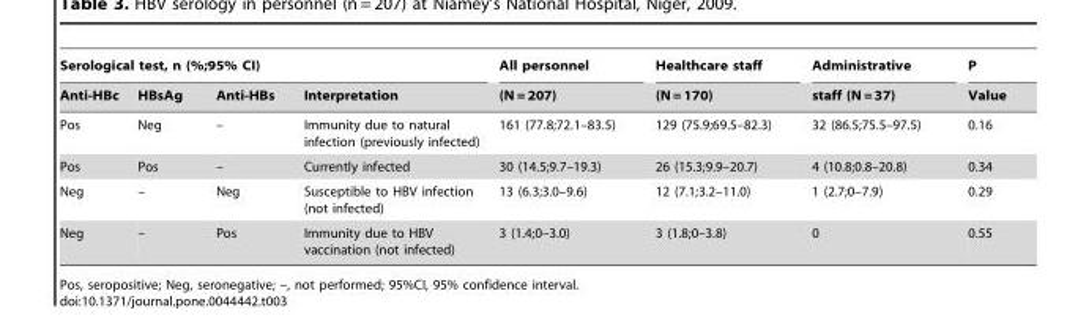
<table><thead><tr><td colspan="4">Serological test, n (%;95% CI)</td><td rowspan="2">All personnel (N = 207)</td><td rowspan="2">Healthcare staff (N = 170)</td><td rowspan="2">Administrative staff (N = 37)</td><td rowspan="2">P Value</td></tr><tr><td>Anti-HBc</td><td>HBsAg</td><td>Anti-HBs</td><td>Interpretation</td></tr></thead><tbody><tr><td>Pos</td><td>Neg</td><td>–</td><td>Immunity due to natural infection (previously infected)</td><td>161 (77.8;72.1–83.5)</td><td>129 (75.9;69.5–82.3)</td><td>32 (86.5;75.5–97.5)</td><td>0.16</td></tr><tr><td>Pos</td><td>Pos</td><td>–</td><td>Currently infected</td><td>30 (14.5;9.7–19.3)</td><td>26 (15.3;9.9–20.7)</td><td>4 (10.8;0.8–20.8)</td><td>0.34</td></tr><tr><td>Neg</td><td>–</td><td>Neg</td><td>Susceptible to HBV infection (not infected)</td><td>13 (6.3;3.0–9.6)</td><td>12 (7.1;3.2–11.0)</td><td>1 (2.7;0–7.9)</td><td>0.29</td></tr><tr><td>Neg</td><td>–</td><td>Pos</td><td>Immunity due to HBV vaccination (not infected)</td><td>3 (1.4;0–3.0)</td><td>3 (1.8;0–3.8)</td><td>0</td><td>0.55</td></tr></tbody></table>